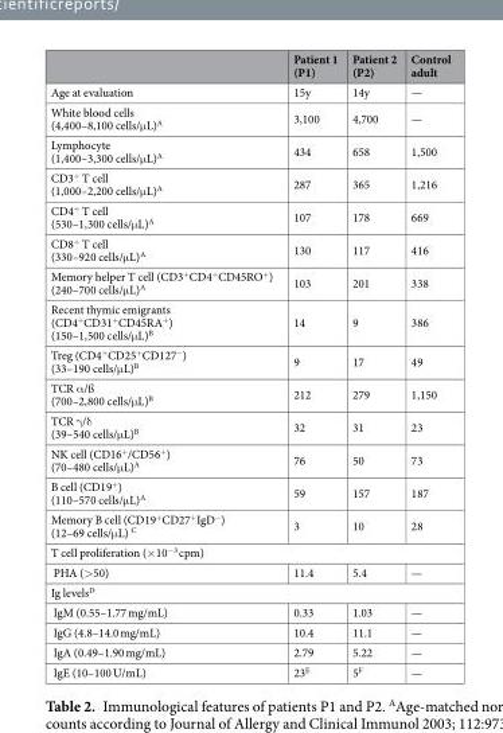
<table><thead><tr><td></td><td>Patient 1 (P1)</td><td>Patient 2 (P2)</td><td>Control adult</td></tr></thead><tbody><tr><td>Age at evaluation</td><td>15y</td><td>14y</td><td>—</td></tr><tr><td>White blood cells (4,400–8,100 cells/μL)<sup>A</sup></td><td>3,100</td><td>4,700</td><td>—</td></tr><tr><td>Lymphocyte (1,400–3,300 cells/μL)<sup>A</sup></td><td>434</td><td>658</td><td>1,500</td></tr><tr><td>CD3<sup>+</sup> T cell (1,000–2,200 cells/μL)<sup>A</sup></td><td>287</td><td>365</td><td>1,216</td></tr><tr><td>CD4<sup>+</sup> T cell (530–1,300 cells/μL)<sup>A</sup></td><td>107</td><td>178</td><td>669</td></tr><tr><td>CD8<sup>+</sup> T cell (330–920 cells/μL)<sup>A</sup></td><td>130</td><td>117</td><td>416</td></tr><tr><td>Memory helper T cell (CD3<sup>+</sup>CD4<sup>+</sup>CD45RO<sup>+</sup>) (240–700 cells/μL)<sup>A</sup></td><td>103</td><td>201</td><td>338</td></tr><tr><td>Recent thymic emigrants (CD4<sup>+</sup>CD31<sup>+</sup>CD45RA<sup>+</sup>) (150–1,500 cells/μL)<sup>B</sup></td><td>14</td><td>9</td><td>386</td></tr><tr><td>Treg (CD4<sup>+</sup>CD25<sup>+</sup>CD127<sup>−</sup>) (33–190 cells/μL)<sup>B</sup></td><td>9</td><td>17</td><td>49</td></tr><tr><td>TCR α/ß (700–2,800 cells/μL)<sup>B</sup></td><td>212</td><td>279</td><td>1,150</td></tr><tr><td>TCR γ/δ (39–540 cells/μL)<sup>B</sup></td><td>32</td><td>31</td><td>23</td></tr><tr><td>NK cell (CD16<sup>+</sup>/CD56<sup>+</sup>) (70–480 cells/μL)<sup>A</sup></td><td>76</td><td>50</td><td>73</td></tr><tr><td>B cell (CD19<sup>+</sup>) (110–570 cells/μL)<sup>A</sup></td><td>59</td><td>157</td><td>187</td></tr><tr><td>Memory B cell (CD19<sup>+</sup>CD27<sup>+</sup>IgD<sup>−</sup>) (12–69 cells/μL) <sup>C</sup></td><td>3</td><td>10</td><td>28</td></tr><tr><td colspan="4">T cell proliferation (×10<sup>−3</sup> cpm)</td></tr><tr><td>PHA (&gt;50)</td><td>11.4</td><td>5.4</td><td>—</td></tr><tr><td colspan="4">Ig levels<sup>D</sup></td></tr><tr><td>IgM (0.55–1.77 mg/mL)</td><td>0.33</td><td>1.03</td><td>—</td></tr><tr><td>IgG (4.8–14.0 mg/mL)</td><td>10.4</td><td>11.1</td><td>—</td></tr><tr><td>IgA (0.49–1.90 mg/mL)</td><td>2.79</td><td>5.22</td><td>—</td></tr><tr><td>IgE (10–100 U/mL)</td><td>23<sup>E</sup></td><td>5<sup>F</sup></td><td>—</td></tr></tbody></table>